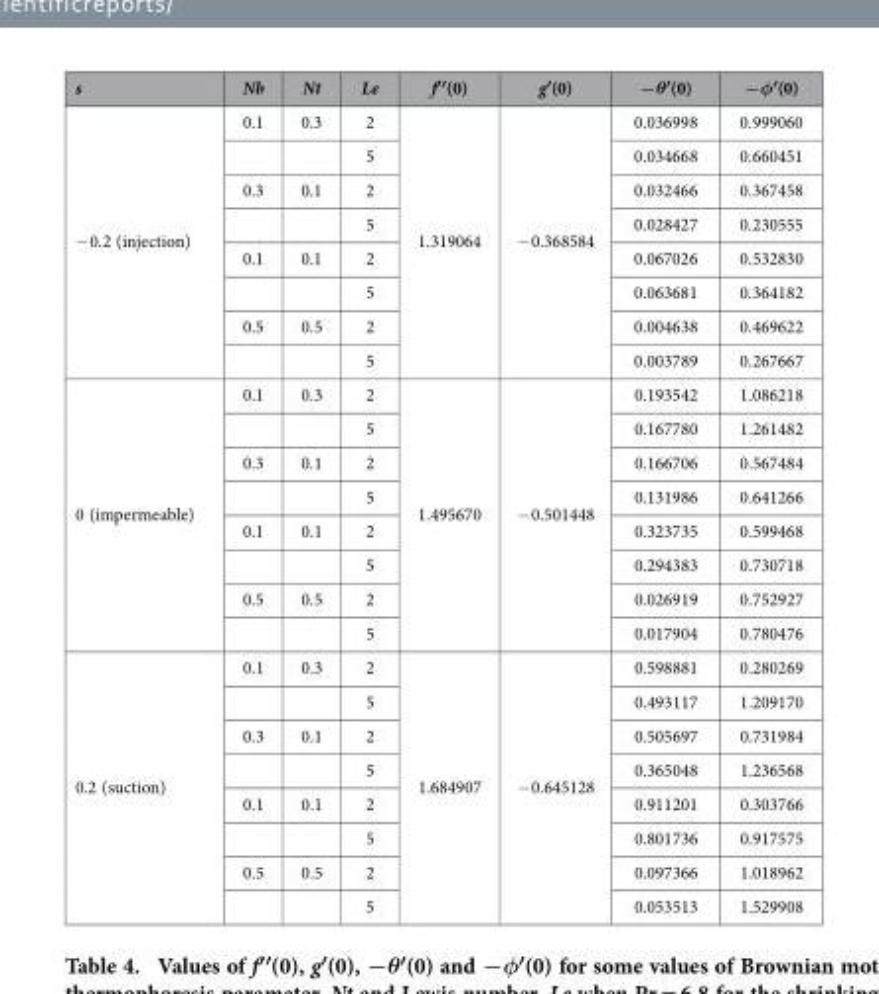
<table><thead><tr><td>s</td><td>Nb</td><td>Nt</td><td>Le</td><td>f′′(0)</td><td>g′(0)</td><td>−θ′(0)</td><td>−φ′(0)</td></tr></thead><tbody><tr><td rowspan="8">− 0.2 (injection)</td><td>0.1</td><td>0.3</td><td>2</td><td rowspan="8">1.319064</td><td rowspan="8">− 0.368584</td><td>0.036998</td><td>0.999060</td></tr><tr><td></td><td></td><td>5</td><td>0.034668</td><td>0.660451</td></tr><tr><td>0.3</td><td>0.1</td><td>2</td><td>0.032466</td><td>0.367458</td></tr><tr><td></td><td></td><td>5</td><td>0.028427</td><td>0.230555</td></tr><tr><td>0.1</td><td>0.1</td><td>2</td><td>0.067026</td><td>0.532830</td></tr><tr><td></td><td></td><td>5</td><td>0.063681</td><td>0.364182</td></tr><tr><td>0.5</td><td>0.5</td><td>2</td><td>0.004638</td><td>0.469622</td></tr><tr><td></td><td></td><td>5</td><td>0.003789</td><td>0.267667</td></tr><tr><td rowspan="8">0 (impermeable)</td><td>0.1</td><td>0.3</td><td>2</td><td rowspan="8">1.495670</td><td rowspan="8">− 0.501448</td><td>0.193542</td><td>1.086218</td></tr><tr><td></td><td></td><td>5</td><td>0.167780</td><td>1.261482</td></tr><tr><td>0.3</td><td>0.1</td><td>2</td><td>0.166706</td><td>0.567484</td></tr><tr><td></td><td></td><td>5</td><td>0.131986</td><td>0.641266</td></tr><tr><td>0.1</td><td>0.1</td><td>2</td><td>0.323735</td><td>0.599468</td></tr><tr><td></td><td></td><td>5</td><td>0.294383</td><td>0.730718</td></tr><tr><td>0.5</td><td>0.5</td><td>2</td><td>0.026919</td><td>0.752927</td></tr><tr><td></td><td></td><td>5</td><td>0.017904</td><td>0.780476</td></tr><tr><td rowspan="8">0.2 (suction)</td><td>0.1</td><td>0.3</td><td>2</td><td rowspan="8">1.684907</td><td rowspan="8">− 0.645128</td><td>0.598881</td><td>0.280269</td></tr><tr><td></td><td></td><td>5</td><td>0.493117</td><td>1.209170</td></tr><tr><td>0.3</td><td>0.1</td><td>2</td><td>0.505697</td><td>0.731984</td></tr><tr><td></td><td></td><td>5</td><td>0.365048</td><td>1.236568</td></tr><tr><td>0.1</td><td>0.1</td><td>2</td><td>0.911201</td><td>0.303766</td></tr><tr><td></td><td></td><td>5</td><td>0.801736</td><td>0.917575</td></tr><tr><td>0.5</td><td>0.5</td><td>2</td><td>0.097366</td><td>1.018962</td></tr><tr><td></td><td></td><td>5</td><td>0.053513</td><td>1.529908</td></tr></tbody></table>